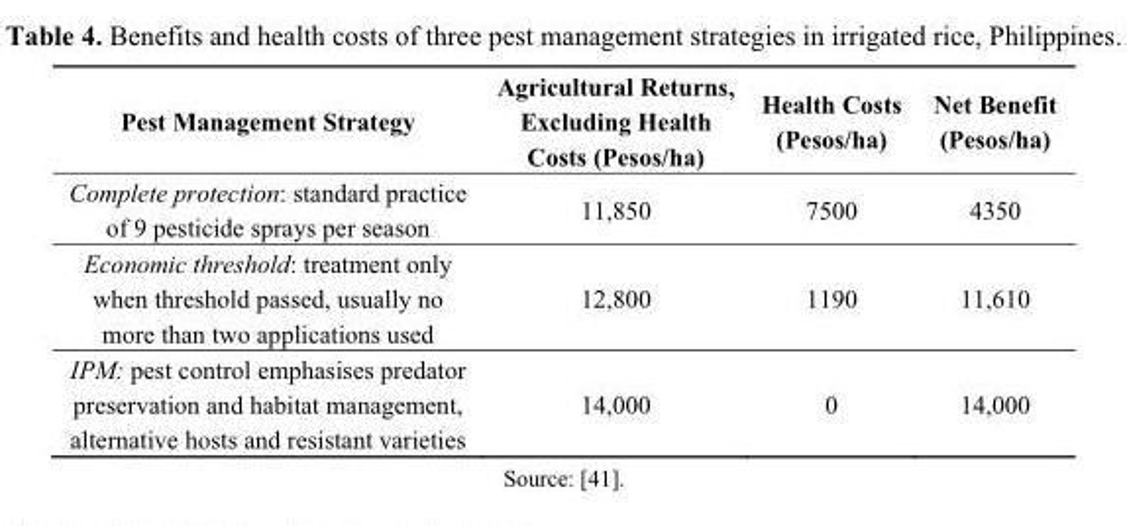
<table><thead><tr><td>Pest Management Strategy</td><td>Agricultural Returns, Excluding Health Costs (Pesos/ha)</td><td>Health Costs (Pesos/ha)</td><td>Net Benefit (Pesos/ha)</td></tr></thead><tbody><tr><td>Complete protection: standard practice of 9 pesticide sprays per season</td><td>11,850</td><td>7500</td><td>4350</td></tr><tr><td>Economic threshold: treatment only when threshold passed, usually no more than two applications used</td><td>12,800</td><td>1190</td><td>11,610</td></tr><tr><td>IPM: pest control emphasises predator preservation and habitat management, alternative hosts and resistant varieties</td><td>14,000</td><td>0</td><td>14,000</td></tr></tbody></table>